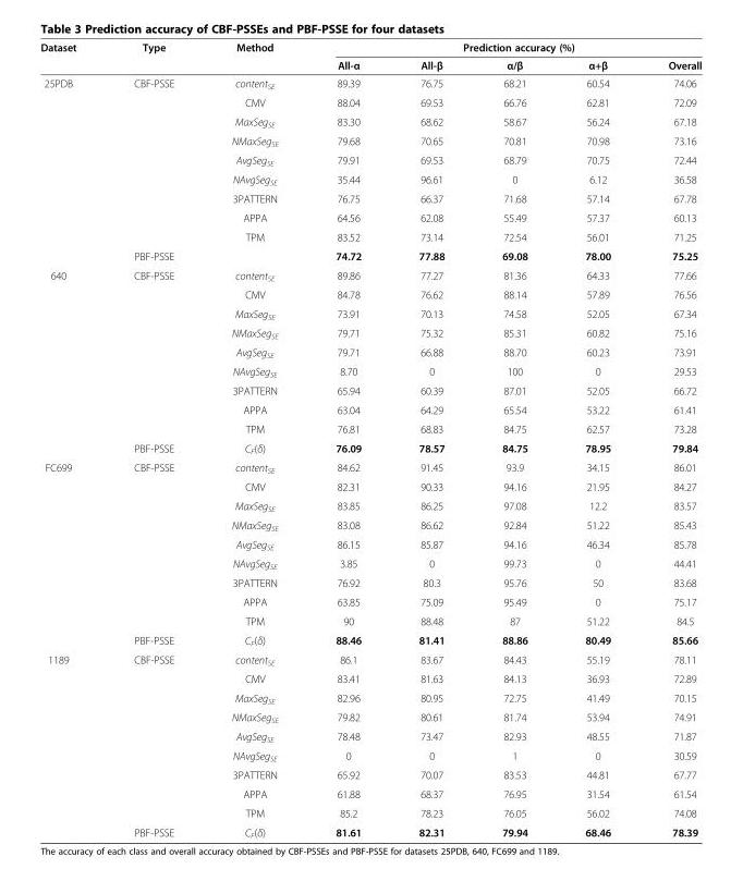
<table><thead><tr><td rowspan="2">Dataset</td><td rowspan="2">Type</td><td rowspan="2">Method</td><td colspan="5">Prediction accuracy (%)</td></tr><tr><td>All-α</td><td>All-β</td><td>α/β</td><td>α+β</td><td>Overall</td></tr></thead><tbody><tr><td rowspan="10">25PDB</td><td rowspan="9">CBF-PSSE</td><td>content<sub>SE</sub></td><td>89.39</td><td>76.75</td><td>68.21</td><td>60.54</td><td>74.06</td></tr><tr><td>CMV</td><td>88.04</td><td>69.53</td><td>66.76</td><td>62.81</td><td>72.09</td></tr><tr><td>MaxSeg<sub>SE</sub></td><td>83.30</td><td>68.62</td><td>58.67</td><td>56.24</td><td>67.18</td></tr><tr><td>NMaxSeg<sub>SE</sub></td><td>79.68</td><td>70.65</td><td>70.81</td><td>70.98</td><td>73.16</td></tr><tr><td>AvgSeg<sub>SE</sub></td><td>79.91</td><td>69.53</td><td>68.79</td><td>70.75</td><td>72.44</td></tr><tr><td>NAvgSeg<sub>SE</sub></td><td>35.44</td><td>96.61</td><td>0</td><td>6.12</td><td>36.58</td></tr><tr><td>3PATTERN</td><td>76.75</td><td>66.37</td><td>71.68</td><td>57.14</td><td>67.78</td></tr><tr><td>APPA</td><td>64.56</td><td>62.08</td><td>55.49</td><td>57.37</td><td>60.13</td></tr><tr><td>TPM</td><td>83.52</td><td>73.14</td><td>72.54</td><td>56.01</td><td>71.25</td></tr><tr><td>PBF-PSSE</td><td></td><td>74.72</td><td>77.88</td><td>69.08</td><td>78.00</td><td>75.25</td></tr><tr><td rowspan="10">640</td><td rowspan="9">CBF-PSSE</td><td>content<sub>SE</sub></td><td>89.86</td><td>77.27</td><td>81.36</td><td>64.33</td><td>77.66</td></tr><tr><td>CMV</td><td>84.78</td><td>76.62</td><td>88.14</td><td>57.89</td><td>76.56</td></tr><tr><td>MaxSeg<sub>SE</sub></td><td>73.91</td><td>70.13</td><td>74.58</td><td>52.05</td><td>67.34</td></tr><tr><td>NMaxSeg<sub>SE</sub></td><td>79.71</td><td>75.32</td><td>85.31</td><td>60.82</td><td>75.16</td></tr><tr><td>AvgSeg<sub>SE</sub></td><td>79.71</td><td>66.88</td><td>88.70</td><td>60.23</td><td>73.91</td></tr><tr><td>NAvgSeg<sub>SE</sub></td><td>8.70</td><td>0</td><td>100</td><td>0</td><td>29.53</td></tr><tr><td>3PATTERN</td><td>65.94</td><td>60.39</td><td>87.01</td><td>52.05</td><td>66.72</td></tr><tr><td>APPA</td><td>63.04</td><td>64.29</td><td>65.54</td><td>53.22</td><td>61.41</td></tr><tr><td>TPM</td><td>76.81</td><td>68.83</td><td>84.75</td><td>62.57</td><td>73.28</td></tr><tr><td>PBF-PSSE</td><td>C<sub>F</sub>(δ)</td><td>76.09</td><td>78.57</td><td>84.75</td><td>78.95</td><td>79.84</td></tr><tr><td rowspan="10">FC699</td><td rowspan="9">CBF-PSSE</td><td>content<sub>SE</sub></td><td>84.62</td><td>91.45</td><td>93.9</td><td>34.15</td><td>86.01</td></tr><tr><td>CMV</td><td>82.31</td><td>90.33</td><td>94.16</td><td>21.95</td><td>84.27</td></tr><tr><td>MaxSeg<sub>SE</sub></td><td>83.85</td><td>86.25</td><td>97.08</td><td>12.2</td><td>83.57</td></tr><tr><td>NMaxSeg<sub>SE</sub></td><td>83.08</td><td>86.62</td><td>92.84</td><td>51.22</td><td>85.43</td></tr><tr><td>AvgSeg<sub>SE</sub></td><td>86.15</td><td>85.87</td><td>94.16</td><td>46.34</td><td>85.78</td></tr><tr><td>NAvgSeg<sub>SE</sub></td><td>3.85</td><td>0</td><td>99.73</td><td>0</td><td>44.41</td></tr><tr><td>3PATTERN</td><td>76.92</td><td>80.3</td><td>95.76</td><td>50</td><td>83.68</td></tr><tr><td>APPA</td><td>63.85</td><td>75.09</td><td>95.49</td><td>0</td><td>75.17</td></tr><tr><td>TPM</td><td>90</td><td>88.48</td><td>87</td><td>51.22</td><td>84.5</td></tr><tr><td>PBF-PSSE</td><td>C<sub>F</sub>(δ)</td><td>88.46</td><td>81.41</td><td>88.86</td><td>80.49</td><td>85.66</td></tr><tr><td rowspan="10">1189</td><td rowspan="9">CBF-PSSE</td><td>content<sub>SE</sub></td><td>86.1</td><td>83.67</td><td>84.43</td><td>55.19</td><td>78.11</td></tr><tr><td>CMV</td><td>83.41</td><td>81.63</td><td>84.13</td><td>36.93</td><td>72.89</td></tr><tr><td>MaxSeg<sub>SE</sub></td><td>82.96</td><td>80.95</td><td>72.75</td><td>41.49</td><td>70.15</td></tr><tr><td>NMaxSeg<sub>SE</sub></td><td>79.82</td><td>80.61</td><td>81.74</td><td>53.94</td><td>74.91</td></tr><tr><td>AvgSeg<sub>SE</sub></td><td>78.48</td><td>73.47</td><td>82.93</td><td>48.55</td><td>71.87</td></tr><tr><td>NAvgSeg<sub>SE</sub></td><td>0</td><td>0</td><td>1</td><td>0</td><td>30.59</td></tr><tr><td>3PATTERN</td><td>65.92</td><td>70.07</td><td>83.53</td><td>44.81</td><td>67.77</td></tr><tr><td>APPA</td><td>61.88</td><td>68.37</td><td>76.95</td><td>31.54</td><td>61.54</td></tr><tr><td>TPM</td><td>85.2</td><td>78.23</td><td>76.05</td><td>56.02</td><td>74.08</td></tr><tr><td>PBF-PSSE</td><td>C<sub>F</sub>(δ)</td><td>81.61</td><td>82.31</td><td>79.94</td><td>68.46</td><td>78.39</td></tr></tbody></table>